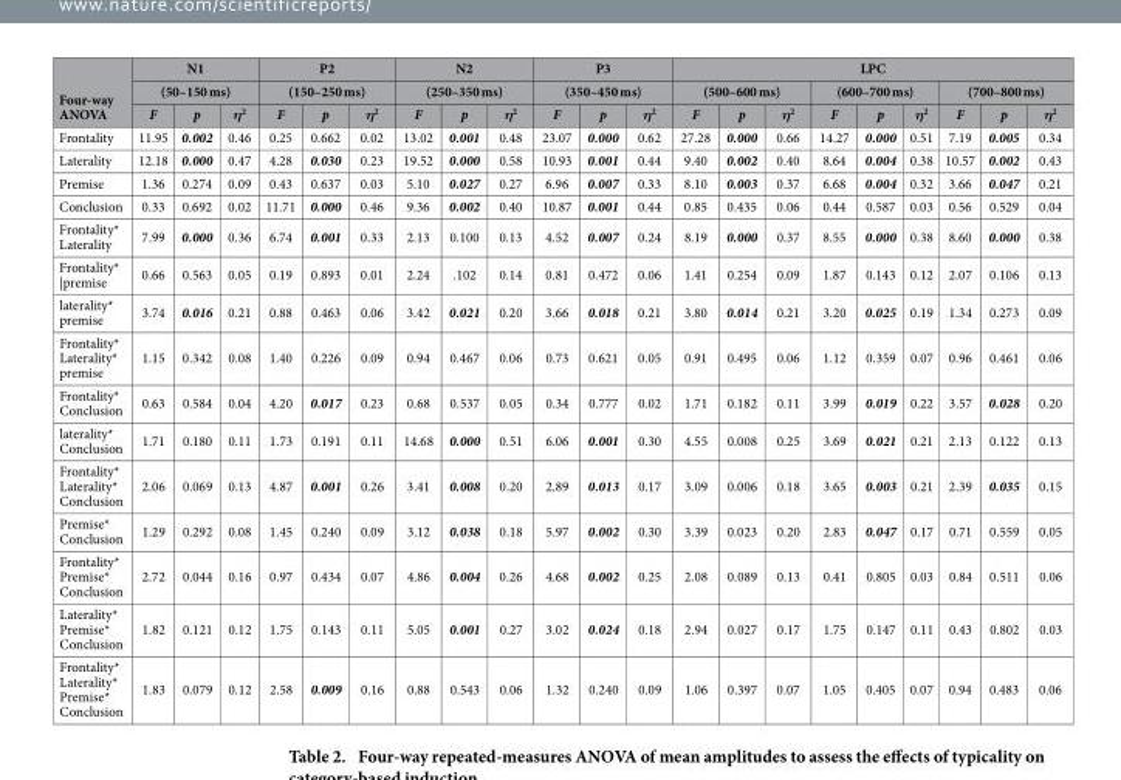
<table><thead><tr><td rowspan="3">Four-way ANOVA</td><td rowspan="2" colspan="3">N1 (50–150 ms)</td><td rowspan="2" colspan="3">P2 (150–250 ms)</td><td rowspan="2" colspan="3">N2 (250–350 ms)</td><td rowspan="2" colspan="3">P3 (350–450 ms)</td><td colspan="9">LPC</td></tr><tr><td colspan="3">(500–600 ms)</td><td colspan="3">(600–700 ms)</td><td colspan="3">(700–800 ms)</td></tr><tr><td>F</td><td>p</td><td>η<sup>2</sup></td><td>F</td><td>p</td><td>η<sup>2</sup></td><td>F</td><td>p</td><td>η<sup>2</sup></td><td>F</td><td>p</td><td>η<sup>2</sup></td><td>F</td><td>p</td><td>η<sup>2</sup></td><td>F</td><td>p</td><td>η<sup>2</sup></td><td>F</td><td>p</td><td>η<sup>2</sup></td></tr></thead><tbody><tr><td>Frontality</td><td>11.95</td><td>0.002</td><td>0.46</td><td>0.25</td><td>0.662</td><td>0.02</td><td>13.02</td><td>0.001</td><td>0.48</td><td>23.07</td><td>0.000</td><td>0.62</td><td>27.28</td><td>0.000</td><td>0.66</td><td>14.27</td><td>0.000</td><td>0.51</td><td>7.19</td><td>0.005</td><td>0.34</td></tr><tr><td>Laterality</td><td>12.18</td><td>0.000</td><td>0.47</td><td>4.28</td><td>0.030</td><td>0.23</td><td>19.52</td><td>0.000</td><td>0.58</td><td>10.93</td><td>0.001</td><td>0.44</td><td>9.40</td><td>0.002</td><td>0.40</td><td>8.64</td><td>0.004</td><td>0.38</td><td>10.57</td><td>0.002</td><td>0.43</td></tr><tr><td>Premise</td><td>1.36</td><td>0.274</td><td>0.09</td><td>0.43</td><td>0.637</td><td>0.03</td><td>5.10</td><td>0.027</td><td>0.27</td><td>6.96</td><td>0.007</td><td>0.33</td><td>8.10</td><td>0.003</td><td>0.37</td><td>6.68</td><td>0.004</td><td>0.32</td><td>3.66</td><td>0.047</td><td>0.21</td></tr><tr><td>Conclusion</td><td>0.33</td><td>0.692</td><td>0.02</td><td>11.71</td><td>0.000</td><td>0.46</td><td>9.36</td><td>0.002</td><td>0.40</td><td>10.87</td><td>0.001</td><td>0.44</td><td>0.85</td><td>0.435</td><td>0.06</td><td>0.44</td><td>0.587</td><td>0.03</td><td>0.56</td><td>0.529</td><td>0.04</td></tr><tr><td>Frontality* Laterality</td><td>7.99</td><td>0.000</td><td>0.36</td><td>6.74</td><td>0.001</td><td>0.33</td><td>2.13</td><td>0.100</td><td>0.13</td><td>4.52</td><td>0.007</td><td>0.24</td><td>8.19</td><td>0.000</td><td>0.37</td><td>8.55</td><td>0.000</td><td>0.38</td><td>8.60</td><td>0.000</td><td>0.38</td></tr><tr><td>Frontality* |premise</td><td>0.66</td><td>0.563</td><td>0.05</td><td>0.19</td><td>0.893</td><td>0.01</td><td>2.24</td><td>.102</td><td>0.14</td><td>0.81</td><td>0.472</td><td>0.06</td><td>1.41</td><td>0.254</td><td>0.09</td><td>1.87</td><td>0.143</td><td>0.12</td><td>2.07</td><td>0.106</td><td>0.13</td></tr><tr><td>laterality* premise</td><td>3.74</td><td>0.016</td><td>0.21</td><td>0.88</td><td>0.463</td><td>0.06</td><td>3.42</td><td>0.021</td><td>0.20</td><td>3.66</td><td>0.018</td><td>0.21</td><td>3.80</td><td>0.014</td><td>0.21</td><td>3.20</td><td>0.025</td><td>0.19</td><td>1.34</td><td>0.273</td><td>0.09</td></tr><tr><td>Frontality* Laterality* premise</td><td>1.15</td><td>0.342</td><td>0.08</td><td>1.40</td><td>0.226</td><td>0.09</td><td>0.94</td><td>0.467</td><td>0.06</td><td>0.73</td><td>0.621</td><td>0.05</td><td>0.91</td><td>0.495</td><td>0.06</td><td>1.12</td><td>0.359</td><td>0.07</td><td>0.96</td><td>0.461</td><td>0.06</td></tr><tr><td>Frontality* Conclusion</td><td>0.63</td><td>0.584</td><td>0.04</td><td>4.20</td><td>0.017</td><td>0.23</td><td>0.68</td><td>0.537</td><td>0.05</td><td>0.34</td><td>0.777</td><td>0.02</td><td>1.71</td><td>0.182</td><td>0.11</td><td>3.99</td><td>0.019</td><td>0.22</td><td>3.57</td><td>0.028</td><td>0.20</td></tr><tr><td>laterality* Conclusion</td><td>1.71</td><td>0.180</td><td>0.11</td><td>1.73</td><td>0.191</td><td>0.11</td><td>14.68</td><td>0.000</td><td>0.51</td><td>6.06</td><td>0.001</td><td>0.30</td><td>4.55</td><td>0.008</td><td>0.25</td><td>3.69</td><td>0.021</td><td>0.21</td><td>2.13</td><td>0.122</td><td>0.13</td></tr><tr><td>Frontality* Laterality* Conclusion</td><td>2.06</td><td>0.069</td><td>0.13</td><td>4.87</td><td>0.001</td><td>0.26</td><td>3.41</td><td>0.008</td><td>0.20</td><td>2.89</td><td>0.013</td><td>0.17</td><td>3.09</td><td>0.006</td><td>0.18</td><td>3.65</td><td>0.003</td><td>0.21</td><td>2.39</td><td>0.035</td><td>0.15</td></tr><tr><td>Premise* Conclusion</td><td>1.29</td><td>0.292</td><td>0.08</td><td>1.45</td><td>0.240</td><td>0.09</td><td>3.12</td><td>0.038</td><td>0.18</td><td>5.97</td><td>0.002</td><td>0.30</td><td>3.39</td><td>0.023</td><td>0.20</td><td>2.83</td><td>0.047</td><td>0.17</td><td>0.71</td><td>0.559</td><td>0.05</td></tr><tr><td>Frontality* Premise* Conclusion</td><td>2.72</td><td>0.044</td><td>0.16</td><td>0.97</td><td>0.434</td><td>0.07</td><td>4.86</td><td>0.004</td><td>0.26</td><td>4.68</td><td>0.002</td><td>0.25</td><td>2.08</td><td>0.089</td><td>0.13</td><td>0.41</td><td>0.805</td><td>0.03</td><td>0.84</td><td>0.511</td><td>0.06</td></tr><tr><td>Laterality* Premise* Conclusion</td><td>1.82</td><td>0.121</td><td>0.12</td><td>1.75</td><td>0.143</td><td>0.11</td><td>5.05</td><td>0.001</td><td>0.27</td><td>3.02</td><td>0.024</td><td>0.18</td><td>2.94</td><td>0.027</td><td>0.17</td><td>1.75</td><td>0.147</td><td>0.11</td><td>0.43</td><td>0.802</td><td>0.03</td></tr><tr><td>Frontality* Laterality* Premise* Conclusion</td><td>1.83</td><td>0.079</td><td>0.12</td><td>2.58</td><td>0.009</td><td>0.16</td><td>0.88</td><td>0.543</td><td>0.06</td><td>1.32</td><td>0.240</td><td>0.09</td><td>1.06</td><td>0.397</td><td>0.07</td><td>1.05</td><td>0.405</td><td>0.07</td><td>0.94</td><td>0.483</td><td>0.06</td></tr></tbody></table>